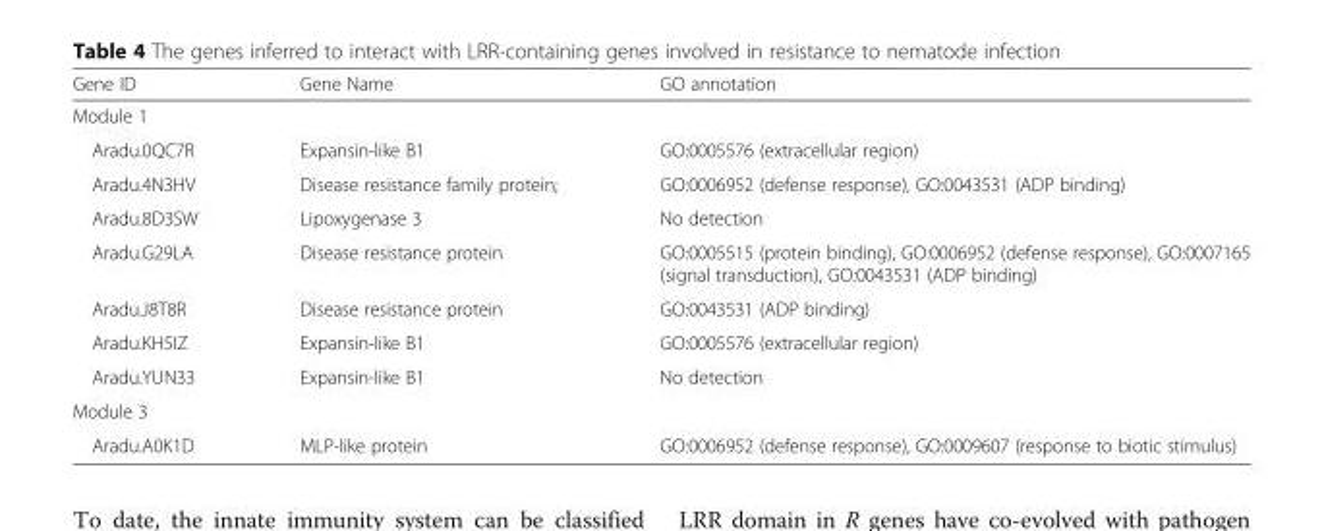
<table><thead><tr><td>Gene ID</td><td>Gene Name</td><td>GO annotation</td></tr></thead><tbody><tr><td colspan="3">Module 1</td></tr><tr><td>Aradu.0QC7R</td><td>Expansin-like B1</td><td>GO:0005576 (extracellular region)</td></tr><tr><td>Aradu.4N3HV</td><td>Disease resistance family protein;</td><td>GO:0006952 (defense response), GO:0043531 (ADP binding)</td></tr><tr><td>Aradu.8D3SW</td><td>Lipoxygenase 3</td><td>No detection</td></tr><tr><td>Aradu.G29LA</td><td>Disease resistance protein</td><td>GO:0005515 (protein binding), GO:0006952 (defense response), GO:0007165 (signal transduction), GO:0043531 (ADP binding)</td></tr><tr><td>Aradu.J8T8R</td><td>Disease resistance protein</td><td>GO:0043531 (ADP binding)</td></tr><tr><td>Aradu.KH5IZ</td><td>Expansin-like B1</td><td>GO:0005576 (extracellular region)</td></tr><tr><td>Aradu.YUN33</td><td>Expansin-like B1</td><td>No detection</td></tr><tr><td colspan="3">Module 3</td></tr><tr><td>Aradu.A0K1D</td><td>MLP-like protein</td><td>GO:0006952 (defense response), GO:0009607 (response to biotic stimulus)</td></tr></tbody></table>